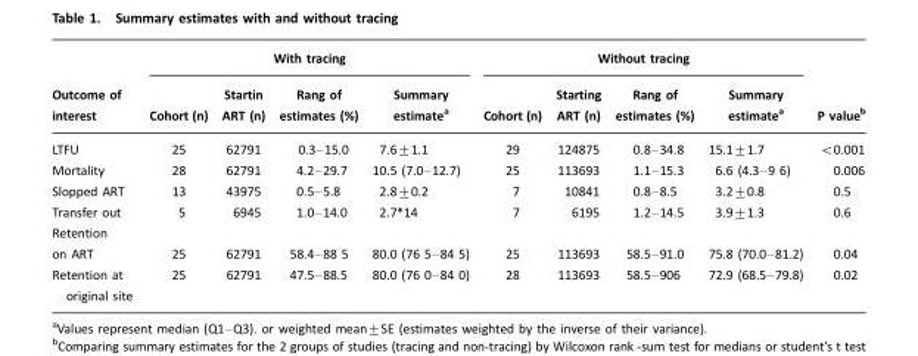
<table><thead><tr><td rowspan="2">Outcome of interest</td><td colspan="4">With tracing</td><td colspan="4">Without tracing</td><td rowspan="2">P valueb</td></tr><tr><td>Cohort (n)</td><td>Startin ART (n)</td><td>Rang of estimates (%)</td><td>Summary estimatea</td><td>Cohort (n)</td><td>Starting ART (n)</td><td>Rang of estimates (%)</td><td>Summary estimatea</td></tr></thead><tbody><tr><td>LTFU</td><td>25</td><td>62791</td><td>0.3–15.0</td><td>7.6±1.1</td><td>29</td><td>124875</td><td>0.8–34.8</td><td>15.1±1.7</td><td>&lt;0.001</td></tr><tr><td>Mortality</td><td>28</td><td>62791</td><td>4.2–29.7</td><td>10.5 (7.0–12.7)</td><td>25</td><td>113693</td><td>1.1–15.3</td><td>6.6 (4.3–9 6)</td><td>0.006</td></tr><tr><td>Slopped ART</td><td>13</td><td>43975</td><td>0.5–5.8</td><td>2.8±0.2</td><td>7</td><td>10841</td><td>0.8–8.5</td><td>3.2±0.8</td><td>0.5</td></tr><tr><td>Transfer out</td><td>5</td><td>6945</td><td>1.0–14.0</td><td>2.7*14</td><td>7</td><td>6195</td><td>1.2–14.5</td><td>3.9±1.3</td><td>0.6</td></tr><tr><td colspan="10">Retention</td></tr><tr><td>on ART</td><td>25</td><td>62791</td><td>58.4–88 5</td><td>80.0 (76 5–84 5)</td><td>25</td><td>113693</td><td>58.5–91.0</td><td>75.8 (70.0–81.2)</td><td>0.04</td></tr><tr><td>Retention at original site</td><td>25</td><td>62791</td><td>47.5–88.5</td><td>80.0 (76 0–84 0)</td><td>28</td><td>113693</td><td>58.5–906</td><td>72.9 (68.5–79.8)</td><td>0.02</td></tr></tbody></table>